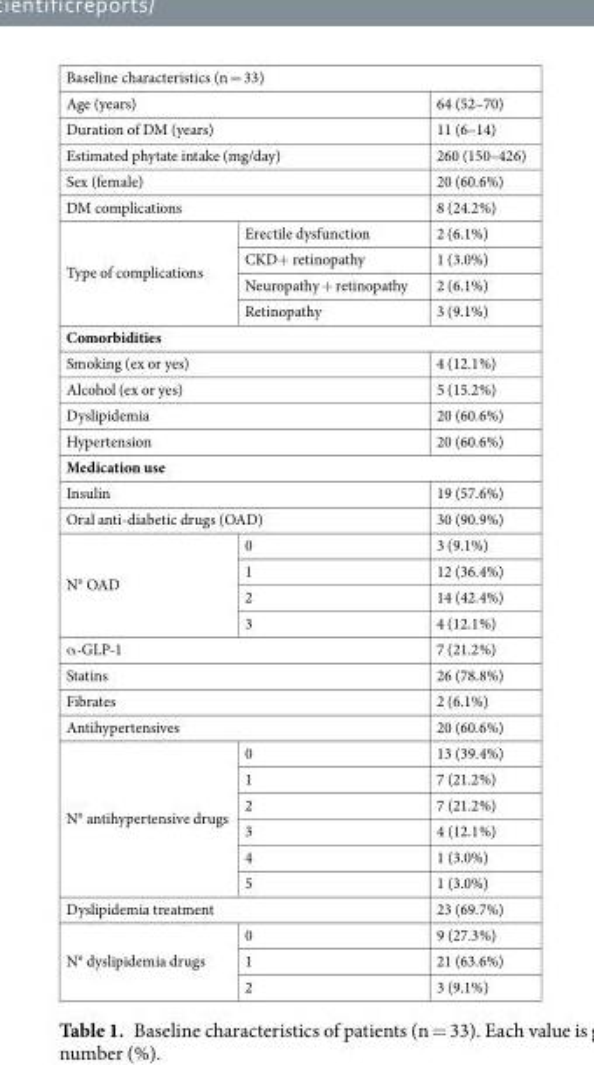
<table><tbody><tr><td colspan="3">Baseline characteristics (n = 33)</td></tr><tr><td colspan="2">Age (years)</td><td>64 (52–70)</td></tr><tr><td colspan="2">Duration of DM (years)</td><td>11 (6–14)</td></tr><tr><td colspan="2">Estimated phytate intake (mg/day)</td><td>260 (150–426)</td></tr><tr><td colspan="2">Sex (female)</td><td>20 (60.6%)</td></tr><tr><td colspan="2">DM complications</td><td>8 (24.2%)</td></tr><tr><td rowspan="4">Type of complications</td><td>Erectile dysfunction</td><td>2 (6.1%)</td></tr><tr><td>CKD+ retinopathy</td><td>1 (3.0%)</td></tr><tr><td>Neuropathy + retinopathy</td><td>2 (6.1%)</td></tr><tr><td>Retinopathy</td><td>3 (9.1%)</td></tr><tr><td colspan="3">Comorbidities</td></tr><tr><td colspan="2">Smoking (ex or yes)</td><td>4 (12.1%)</td></tr><tr><td colspan="2">Alcohol (ex or yes)</td><td>5 (15.2%)</td></tr><tr><td colspan="2">Dyslipidemia</td><td>20 (60.6%)</td></tr><tr><td colspan="2">Hypertension</td><td>20 (60.6%)</td></tr><tr><td colspan="3">Medication use</td></tr><tr><td colspan="2">Insulin</td><td>19 (57.6%)</td></tr><tr><td colspan="2">Oral anti-diabetic drugs (OAD)</td><td>30 (90.9%)</td></tr><tr><td rowspan="4">N° OAD</td><td>0</td><td>3 (9.1%)</td></tr><tr><td>1</td><td>12 (36.4%)</td></tr><tr><td>2</td><td>14 (42.4%)</td></tr><tr><td>3</td><td>4 (12.1%)</td></tr><tr><td colspan="2">α-GLP-1</td><td>7 (21.2%)</td></tr><tr><td colspan="2">Statins</td><td>26 (78.8%)</td></tr><tr><td colspan="2">Fibrates</td><td>2 (6.1%)</td></tr><tr><td colspan="2">Antihypertensives</td><td>20 (60.6%)</td></tr><tr><td rowspan="6">N° antihypertensive drugs</td><td>0</td><td>13 (39.4%)</td></tr><tr><td>1</td><td>7 (21.2%)</td></tr><tr><td>2</td><td>7 (21.2%)</td></tr><tr><td>3</td><td>4 (12.1%)</td></tr><tr><td>4</td><td>1 (3.0%)</td></tr><tr><td>5</td><td>1 (3.0%)</td></tr><tr><td colspan="2">Dyslipidemia treatment</td><td>23 (69.7%)</td></tr><tr><td rowspan="3">N° dyslipidemia drugs</td><td>0</td><td>9 (27.3%)</td></tr><tr><td>1</td><td>21 (63.6%)</td></tr><tr><td>2</td><td>3 (9.1%)</td></tr></tbody></table>